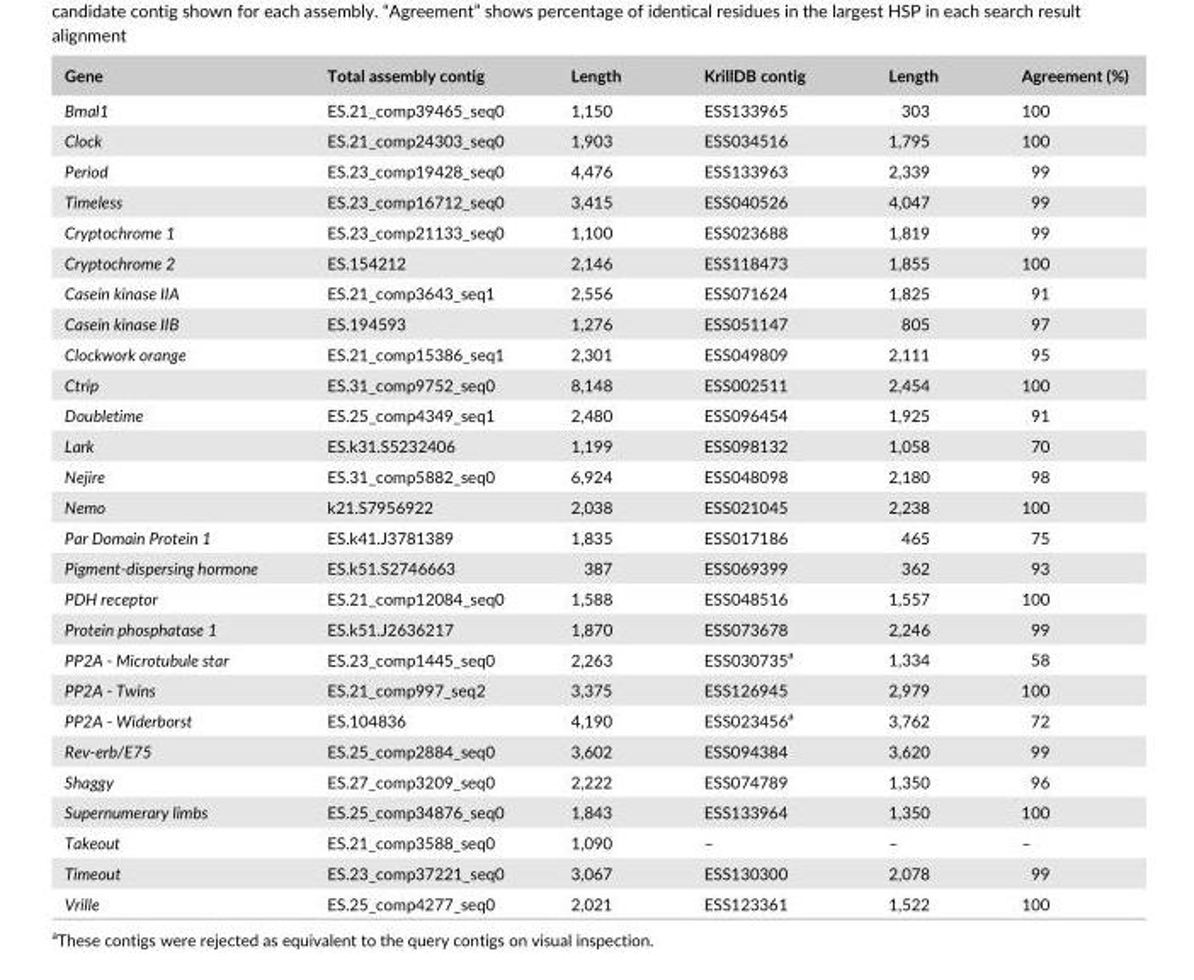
<table><thead><tr><td>Gene</td><td>Total assembly contig</td><td>Length</td><td>KrillDB contig</td><td>Length</td><td>Agreement (%)</td></tr></thead><tbody><tr><td>Bmal1</td><td>ES.21_comp39465_seq0</td><td>1,150</td><td>ESS133965</td><td>303</td><td>100</td></tr><tr><td>Clock</td><td>ES.21_comp24303_seq0</td><td>1,903</td><td>ESS034516</td><td>1,795</td><td>100</td></tr><tr><td>Period</td><td>ES.23_comp19428_seq0</td><td>4,476</td><td>ESS133963</td><td>2,339</td><td>99</td></tr><tr><td>Timeless</td><td>ES.23_comp16712_seq0</td><td>3,415</td><td>ESS040526</td><td>4,047</td><td>99</td></tr><tr><td>Cryptochrome 1</td><td>ES.23_comp21133_seq0</td><td>1,100</td><td>ESS023688</td><td>1,819</td><td>99</td></tr><tr><td>Cryptochrome 2</td><td>ES.154212</td><td>2,146</td><td>ESS118473</td><td>1,855</td><td>100</td></tr><tr><td>Casein kinase IIA</td><td>ES.21_comp3643_seq1</td><td>2,556</td><td>ESS071624</td><td>1,825</td><td>91</td></tr><tr><td>Casein kinase IIB</td><td>ES.194593</td><td>1,276</td><td>ESS051147</td><td>805</td><td>97</td></tr><tr><td>Clockwork orange</td><td>ES.21_comp15386_seq1</td><td>2,301</td><td>ESS049809</td><td>2,111</td><td>95</td></tr><tr><td>Ctrip</td><td>ES.31_comp9752_seq0</td><td>8,148</td><td>ESS002511</td><td>2,454</td><td>100</td></tr><tr><td>Doubletime</td><td>ES.25_comp4349_seq1</td><td>2,480</td><td>ESS096454</td><td>1,925</td><td>91</td></tr><tr><td>Lark</td><td>ES.k31.S5232406</td><td>1,199</td><td>ESS098132</td><td>1,058</td><td>70</td></tr><tr><td>Nejire</td><td>ES.31_comp5882_seq0</td><td>6,924</td><td>ESS048098</td><td>2,180</td><td>98</td></tr><tr><td>Nemo</td><td>k21.S7956922</td><td>2,038</td><td>ESS021045</td><td>2,238</td><td>100</td></tr><tr><td>Par Domain Protein 1</td><td>ES.k41.J3781389</td><td>1,835</td><td>ESS017186</td><td>465</td><td>75</td></tr><tr><td>Pigment-dispersing hormone</td><td>ES.k51.S2746663</td><td>387</td><td>ESS069399</td><td>362</td><td>93</td></tr><tr><td>PDH receptor</td><td>ES.21_comp12084_seq0</td><td>1,588</td><td>ESS048516</td><td>1,557</td><td>100</td></tr><tr><td>Protein phosphatase 1</td><td>ES.k51.J2636217</td><td>1,870</td><td>ESS073678</td><td>2,246</td><td>99</td></tr><tr><td>PP2A - Microtubule star</td><td>ES.23_comp1445_seq0</td><td>2,263</td><td>ESS030735<sup>a</sup></td><td>1,334</td><td>58</td></tr><tr><td>PP2A - Twins</td><td>ES.21_comp997_seq2</td><td>3,375</td><td>ESS126945</td><td>2,979</td><td>100</td></tr><tr><td>PP2A - Widerborst</td><td>ES.104836</td><td>4,190</td><td>ESS023456<sup>a</sup></td><td>3,762</td><td>72</td></tr><tr><td>Rev-erb/E75</td><td>ES.25_comp2884_seq0</td><td>3,602</td><td>ESS094384</td><td>3,620</td><td>99</td></tr><tr><td>Shaggy</td><td>ES.27_comp3209_seq0</td><td>2,222</td><td>ESS074789</td><td>1,350</td><td>96</td></tr><tr><td>Supernumerary limbs</td><td>ES.25_comp34876_seq0</td><td>1,843</td><td>ESS133964</td><td>1,350</td><td>100</td></tr><tr><td>Takeout</td><td>ES.21_comp3588_seq0</td><td>1,090</td><td>–</td><td>–</td><td>–</td></tr><tr><td>Timeout</td><td>ES.23_comp37221_seq0</td><td>3,067</td><td>ESS130300</td><td>2,078</td><td>99</td></tr><tr><td>Vrille</td><td>ES.25_comp4277_seq0</td><td>2,021</td><td>ESS123361</td><td>1,522</td><td>100</td></tr></tbody></table>